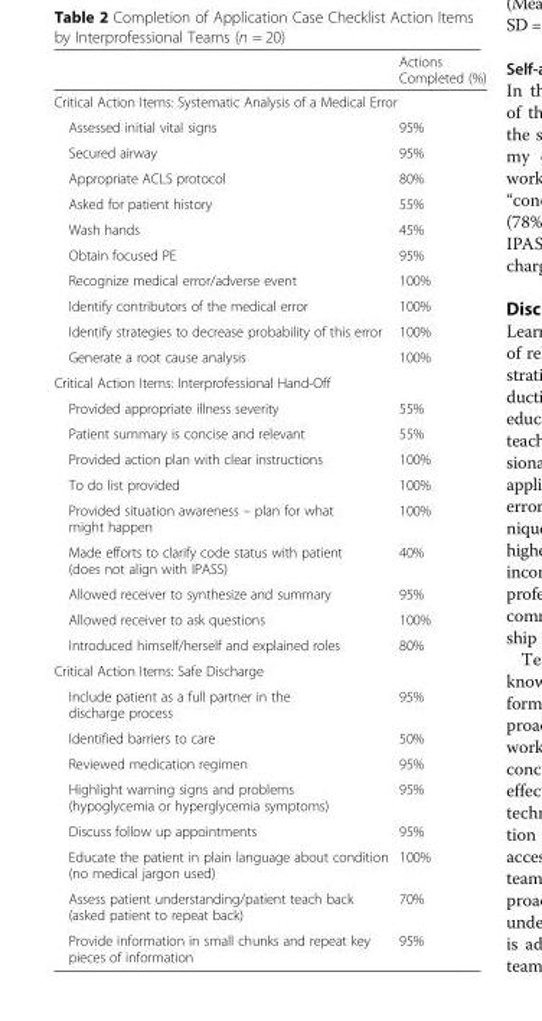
<table><thead><tr><td></td><td>Actions Completed (%)</td></tr></thead><tbody><tr><td colspan="2">Critical Action Items: Systematic Analysis of a Medical Error</td></tr><tr><td>Assessed initial vital signs</td><td>95%</td></tr><tr><td>Secured airway</td><td>95%</td></tr><tr><td>Appropriate ACLS protocol</td><td>80%</td></tr><tr><td>Asked for patient history</td><td>55%</td></tr><tr><td>Wash hands</td><td>45%</td></tr><tr><td>Obtain focused PE</td><td>95%</td></tr><tr><td>Recognize medical error/adverse event</td><td>100%</td></tr><tr><td>Identify contributors of the medical error</td><td>100%</td></tr><tr><td>Identify strategies to decrease probability of this error</td><td>100%</td></tr><tr><td>Generate a root cause analysis</td><td>100%</td></tr><tr><td colspan="2">Critical Action Items: Interprofessional Hand-Off</td></tr><tr><td>Provided appropriate illness severity</td><td>55%</td></tr><tr><td>Patient summary is concise and relevant</td><td>55%</td></tr><tr><td>Provided action plan with clear instructions</td><td>100%</td></tr><tr><td>To do list provided</td><td>100%</td></tr><tr><td>Provided situation awareness – plan for what might happen</td><td>100%</td></tr><tr><td>Made efforts to clarify code status with patient (does not align with IPASS)</td><td>40%</td></tr><tr><td>Allowed receiver to synthesize and summary</td><td>95%</td></tr><tr><td>Allowed receiver to ask questions</td><td>100%</td></tr><tr><td>Introduced himself/herself and explained roles</td><td>80%</td></tr><tr><td colspan="2">Critical Action Items: Safe Discharge</td></tr><tr><td>Include patient as a full partner in the discharge process</td><td>95%</td></tr><tr><td>Identified barriers to care</td><td>50%</td></tr><tr><td>Reviewed medication regimen</td><td>95%</td></tr><tr><td>Highlight warning signs and problems (hypoglycemia or hyperglycemia symptoms)</td><td>95%</td></tr><tr><td>Discuss follow up appointments</td><td>95%</td></tr><tr><td>Educate the patient in plain language about condition (no medical jargon used)</td><td>100%</td></tr><tr><td>Assess patient understanding/patient teach back (asked patient to repeat back)</td><td>70%</td></tr><tr><td>Provide information in small chunks and repeat key pieces of information</td><td>95%</td></tr></tbody></table>